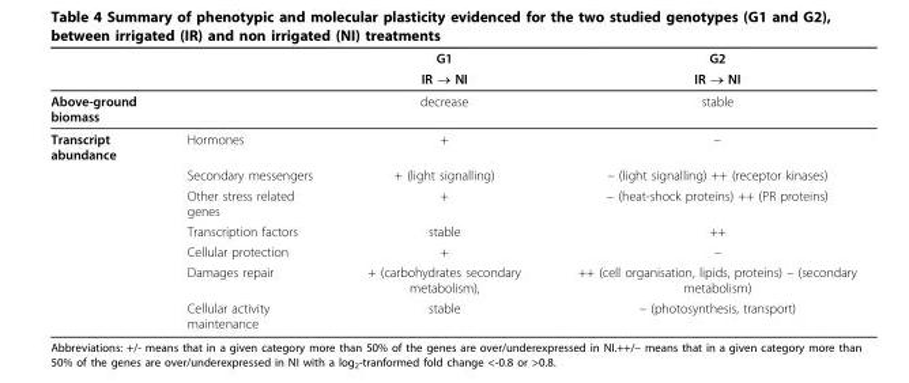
<table><thead><tr><td rowspan="2"></td><td rowspan="2"></td><td rowspan="2">G1 IR → NI</td><td rowspan="2">G2 IR → NI</td></tr><tr></tr></thead><tbody><tr><td>Above-ground biomass</td><td></td><td>decrease</td><td>stable</td></tr><tr><td rowspan="7">Transcript abundance</td><td>Hormones</td><td>+</td><td>–</td></tr><tr><td>Secondary messengers</td><td>+ (light signalling)</td><td>– (light signalling) ++ (receptor kinases)</td></tr><tr><td>Other stress related genes</td><td>+</td><td>– (heat-shock proteins) ++ (PR proteins)</td></tr><tr><td>Transcription factors</td><td>stable</td><td>++</td></tr><tr><td>Cellular protection</td><td>+</td><td>–</td></tr><tr><td>Damages repair</td><td>+ (carbohydrates secondary metabolism),</td><td>++ (cell organisation, lipids, proteins) – (secondary metabolism)</td></tr><tr><td>Cellular activity maintenance</td><td>stable</td><td>– (photosynthesis, transport)</td></tr></tbody></table>